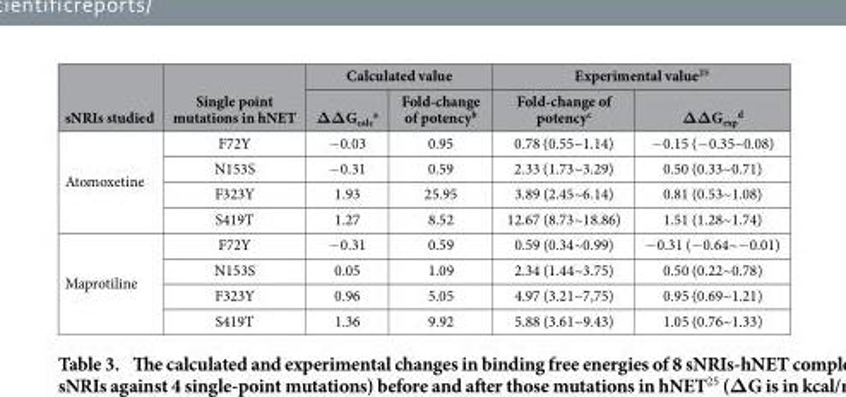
<table><thead><tr><td rowspan="2">sNRIs studied</td><td rowspan="2">Single point mutations in hNET</td><td colspan="2">Calculated value</td><td colspan="2">Experimental value<sup>25</sup></td></tr><tr><td>ΔΔG<sub>calc</sub> <sup>a</sup></td><td>Fold-change of potency<sup>b</sup></td><td>Fold-change of potency<sup>c</sup></td><td>ΔΔG<sub>exp</sub> <sup>d</sup></td></tr></thead><tbody><tr><td rowspan="4">Atomoxetine</td><td>F72Y</td><td>− 0.03</td><td>0.95</td><td>0.78 (0.55~1.14)</td><td>− 0.15 (− 0.35~0.08)</td></tr><tr><td>N153S</td><td>− 0.31</td><td>0.59</td><td>2.33 (1.73~3.29)</td><td>0.50 (0.33~0.71)</td></tr><tr><td>F323Y</td><td>1.93</td><td>25.95</td><td>3.89 (2.45~6.14)</td><td>0.81 (0.53~1.08)</td></tr><tr><td>S419T</td><td>1.27</td><td>8.52</td><td>12.67 (8.73~18.86)</td><td>1.51 (1.28~1.74)</td></tr><tr><td rowspan="4">Maprotiline</td><td>F72Y</td><td>− 0.31</td><td>0.59</td><td>0.59 (0.34~0.99)</td><td>− 0.31 (− 0.64~− 0.01)</td></tr><tr><td>N153S</td><td>0.05</td><td>1.09</td><td>2.34 (1.44~3.75)</td><td>0.50 (0.22~0.78)</td></tr><tr><td>F323Y</td><td>0.96</td><td>5.05</td><td>4.97 (3.21~7,75)</td><td>0.95 (0.69~1.21)</td></tr><tr><td>S419T</td><td>1.36</td><td>9.92</td><td>5.88 (3.61~9.43)</td><td>1.05 (0.76~1.33)</td></tr></tbody></table>